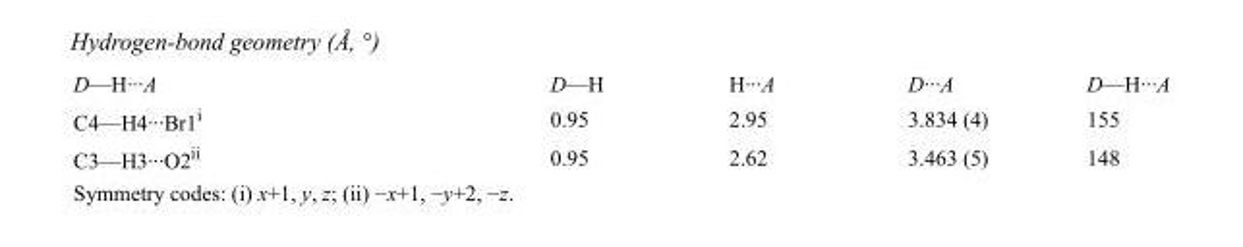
<table><tbody><tr><td>D—H···A</td><td>D—H</td><td>H···A</td><td>D···A</td><td>D—H···A</td></tr><tr><td>C4—H4···Br1<sup>i</sup></td><td>0.95</td><td>2.95</td><td>3.834 (4)</td><td>155</td></tr><tr><td>C3—H3···O2<sup>ii</sup></td><td>0.95</td><td>2.62</td><td>3.463 (5)</td><td>148</td></tr></tbody></table>